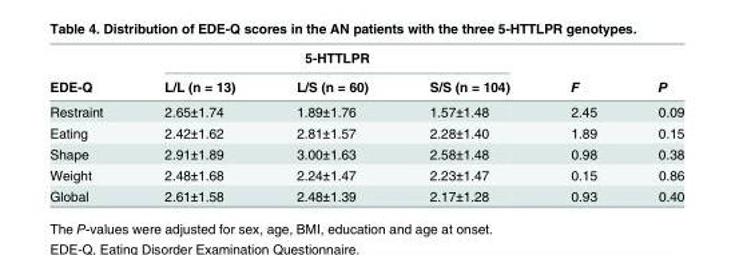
<table><thead><tr><td rowspan="2">EDE-Q</td><td colspan="3">5-HTTLPR</td><td rowspan="2">F</td><td rowspan="2">P</td></tr><tr><td>L/L (n = 13)</td><td>L/S (n = 60)</td><td>S/S (n = 104)</td></tr></thead><tbody><tr><td>Restraint</td><td>2.65±1.74</td><td>1.89±1.76</td><td>1.57±1.48</td><td>2.45</td><td>0.09</td></tr><tr><td>Eating</td><td>2.42±1.62</td><td>2.81±1.57</td><td>2.28±1.40</td><td>1.89</td><td>0.15</td></tr><tr><td>Shape</td><td>2.91±1.89</td><td>3.00±1.63</td><td>2.58±1.48</td><td>0.98</td><td>0.38</td></tr><tr><td>Weight</td><td>2.48±1.68</td><td>2.24±1.47</td><td>2.23±1.47</td><td>0.15</td><td>0.86</td></tr><tr><td>Global</td><td>2.61±1.58</td><td>2.48±1.39</td><td>2.17±1.28</td><td>0.93</td><td>0.40</td></tr></tbody></table>